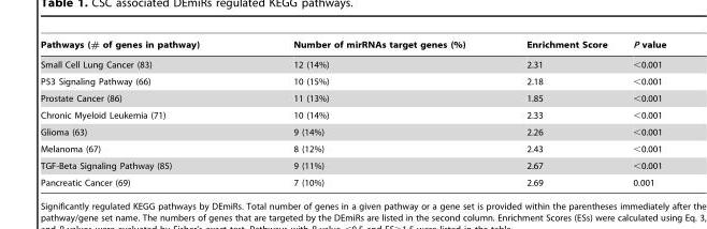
<table><thead><tr><td>Pathways (# of genes in pathway)</td><td>Number of mirRNAs target genes (%)</td><td>Enrichment Score</td><td>P value</td></tr></thead><tbody><tr><td>Small Cell Lung Cancer (83)</td><td>12 (14%)</td><td>2.31</td><td>&lt;0.001</td></tr><tr><td>P53 Signaling Pathway (66)</td><td>10 (15%)</td><td>2.18</td><td>&lt;0.001</td></tr><tr><td>Prostate Cancer (86)</td><td>11 (13%)</td><td>1.85</td><td>&lt;0.001</td></tr><tr><td>Chronic Myeloid Leukemia (71)</td><td>10 (14%)</td><td>2.33</td><td>&lt;0.001</td></tr><tr><td>Glioma (63)</td><td>9 (14%)</td><td>2.26</td><td>&lt;0.001</td></tr><tr><td>Melanoma (67)</td><td>8 (12%)</td><td>2.43</td><td>&lt;0.001</td></tr><tr><td>TGF-Beta Signaling Pathway (85)</td><td>9 (11%)</td><td>2.67</td><td>&lt;0.001</td></tr><tr><td>Pancreatic Cancer (69)</td><td>7 (10%)</td><td>2.69</td><td>0.001</td></tr></tbody></table>